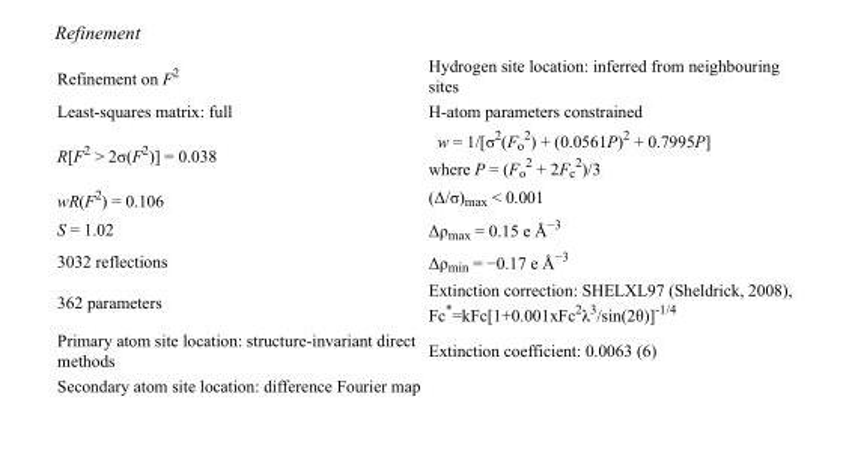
<table><tbody><tr><td>Refinement on F<sup>2</sup></td><td>Hydrogen site location: inferred from neighbouring sites</td></tr><tr><td>Least-squares matrix: full</td><td>H-atom parameters constrained</td></tr><tr><td>R[F<sup>2</sup> &gt; 2σ(F<sup>2</sup>)] = 0.038</td><td>w = 1/[σ<sup>2</sup>(F<sub>o</sub> <sup>2</sup>) + (0.0561P)<sup>2</sup> + 0.7995P] where P = (F<sub>o</sub> <sup>2</sup> + 2F<sub>c</sub> <sup>2</sup>)/3</td></tr><tr><td>wR(F<sup>2</sup>) = 0.106</td><td>(Δ/σ)<sub>max</sub> &lt; 0.001</td></tr><tr><td>S = 1.02</td><td>Δρ<sub>max</sub> = 0.15 e Å<sup>−3</sup></td></tr><tr><td>3032 reflections</td><td>Δρ<sub>min</sub> = −0.17 e Å<sup>−3</sup></td></tr><tr><td>362 parameters</td><td>Extinction correction: SHELXL97 (Sheldrick, 2008), Fc*=kFc[1+0.001xFc<sup>2</sup>λ<sup>3</sup>/sin(2θ)]<sup>-1/4</sup></td></tr><tr><td>Primary atom site location: structure-invariant direct methods</td><td>Extinction coefficient: 0.0063 (6)</td></tr><tr><td>Secondary atom site location: difference Fourier map</td><td></td></tr></tbody></table>